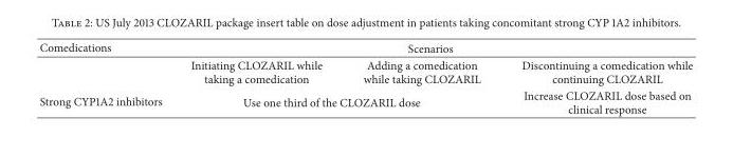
<table><thead><tr><td rowspan="2">Comedications</td><td colspan="3">Scenarios</td></tr><tr><td>Initiating CLOZARIL while taking a comedication</td><td>Adding a comedication while taking CLOZARIL</td><td>Discontinuing a comedication while continuing CLOZARIL</td></tr></thead><tbody><tr><td>Strong CYP1A2 inhibitors</td><td colspan="2">Use one third of the CLOZARIL dose</td><td>Increase CLOZARIL dose based on clinical response</td></tr></tbody></table>